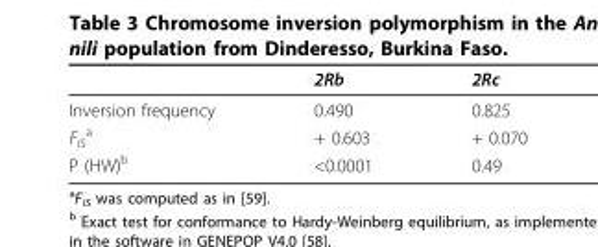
<table><thead><tr><td></td><td>2Rb</td><td>2Rc</td></tr></thead><tbody><tr><td>Inversion frequency</td><td>0.490</td><td>0.825</td></tr><tr><td>F<sub>IS</sub> <sup>a</sup></td><td>+ 0.603</td><td>+ 0.070</td></tr><tr><td>P (HW)<sup>b</sup></td><td>&lt;0.0001</td><td>0.49</td></tr></tbody></table>